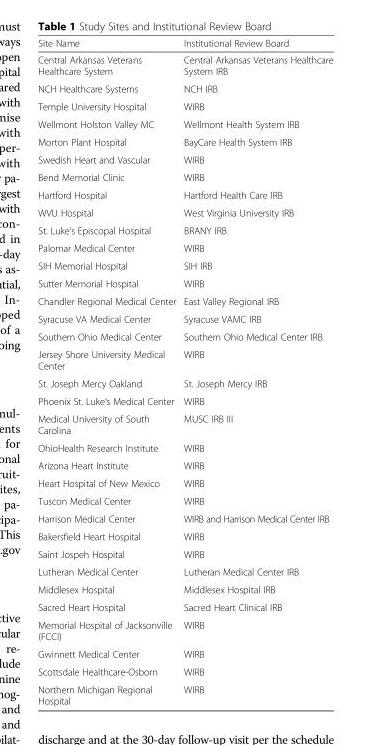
<table><thead><tr><td>Site Name</td><td>Institutional Review Board</td></tr></thead><tbody><tr><td>Central Arkansas Veterans Healthcare System</td><td>Central Arkansas Veterans Healthcare System IRB</td></tr><tr><td>NCH Healthcare Systems</td><td>NCH IRB</td></tr><tr><td>Temple University Hospital</td><td>WIRB</td></tr><tr><td>Wellmont Holston Valley MC</td><td>Wellmont Health System IRB</td></tr><tr><td>Morton Plant Hospital</td><td>BayCare Health System IRB</td></tr><tr><td>Swedish Heart and Vascular</td><td>WIRB</td></tr><tr><td>Bend Memorial Clinic</td><td>WIRB</td></tr><tr><td>Hartford Hospital</td><td>Hartford Health Care IRB</td></tr><tr><td>WVU Hospital</td><td>West Virginia University IRB</td></tr><tr><td>St. Luke’s Episcopal Hospital</td><td>BRANY IRB</td></tr><tr><td>Palomar Medical Center</td><td>WIRB</td></tr><tr><td>SIH Memorial Hospital</td><td>SIH IRB</td></tr><tr><td>Sutter Memorial Hospital</td><td>WIRB</td></tr><tr><td>Chandler Regional Medical Center</td><td>East Valley Regional IRB</td></tr><tr><td>Syracuse VA Medical Center</td><td>Syracuse VAMC IRB</td></tr><tr><td>Southern Ohio Medical Center</td><td>Southern Ohio Medical Center IRB</td></tr><tr><td>Jersey Shore University Medical Center</td><td>WIRB</td></tr><tr><td>St. Joseph Mercy Oakland</td><td>St. Joseph Mercy IRB</td></tr><tr><td>Phoenix St. Luke‘s Medical Center</td><td>WIRB</td></tr><tr><td>Medical University of South Carolina</td><td>MUSC IRB III</td></tr><tr><td>OhioHealth Research Institute</td><td>WIRB</td></tr><tr><td>Arizona Heart Institute</td><td>WIRB</td></tr><tr><td>Heart Hospital of New Mexico</td><td>WIRB</td></tr><tr><td>Tuscon Medical Center</td><td>WIRB</td></tr><tr><td>Harrison Medical Center</td><td>WIRB and Harrison Medical Center IRB</td></tr><tr><td>Bakersfield Heart Hospital</td><td>WIRB</td></tr><tr><td>Saint Jospeh Hospital</td><td>WIRB</td></tr><tr><td>Lutheran Medical Center</td><td>Lutheran Medical Center IRB</td></tr><tr><td>Middlesex Hospital</td><td>Middlesex Hospital IRB</td></tr><tr><td>Sacred Heart Hospital</td><td>Sacred Heart Clinical IRB</td></tr><tr><td>Memorial Hospital of Jacksonville (FCCI)</td><td>WIRB</td></tr><tr><td>Gwinnett Medical Center</td><td>WIRB</td></tr><tr><td>Scottsdale Healthcare-Osborn</td><td>WIRB</td></tr><tr><td>Northern Michigan Regional Hospital</td><td>WIRB</td></tr></tbody></table>